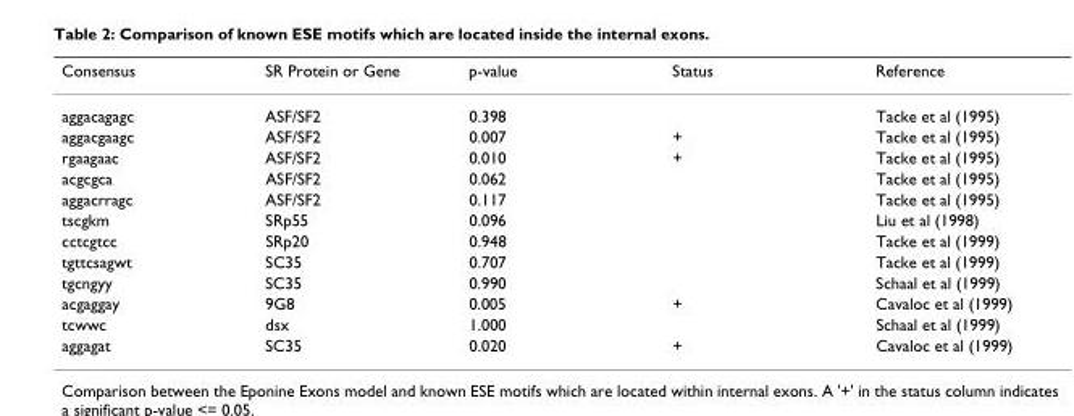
<table><thead><tr><td>Consensus</td><td>SR Protein or Gene</td><td>p-value</td><td>Status</td><td>Reference</td></tr></thead><tbody><tr><td>aggacagagc</td><td>ASF/SF2</td><td>0.398</td><td></td><td>Tacke et al (1995)</td></tr><tr><td>aggacgaagc</td><td>ASF/SF2</td><td>0.007</td><td>+</td><td>Tacke et al (1995)</td></tr><tr><td>rgaagaac</td><td>ASF/SF2</td><td>0.010</td><td>+</td><td>Tacke et al (1995)</td></tr><tr><td>acgcgca</td><td>ASF/SF2</td><td>0.062</td><td></td><td>Tacke et al (1995)</td></tr><tr><td>aggacrragc</td><td>ASF/SF2</td><td>0.117</td><td></td><td>Tacke et al (1995)</td></tr><tr><td>tscgkm</td><td>SRp55</td><td>0.096</td><td></td><td>Liu et al (1998)</td></tr><tr><td>cctcgtcc</td><td>SRp20</td><td>0.948</td><td></td><td>Tacke et al (1999)</td></tr><tr><td>tgttcsagwt</td><td>SC35</td><td>0.707</td><td></td><td>Tacke et al (1999)</td></tr><tr><td>tgcngyy</td><td>SC35</td><td>0.990</td><td></td><td>Schaal et al (1999)</td></tr><tr><td>acgaggay</td><td>9G8</td><td>0.005</td><td>+</td><td>Cavaloc et al (1999)</td></tr><tr><td>tcwwc</td><td>dsx</td><td>1.000</td><td></td><td>Schaal et al (1999)</td></tr><tr><td>aggagat</td><td>SC35</td><td>0.020</td><td>+</td><td>Cavaloc et al (1999)</td></tr></tbody></table>